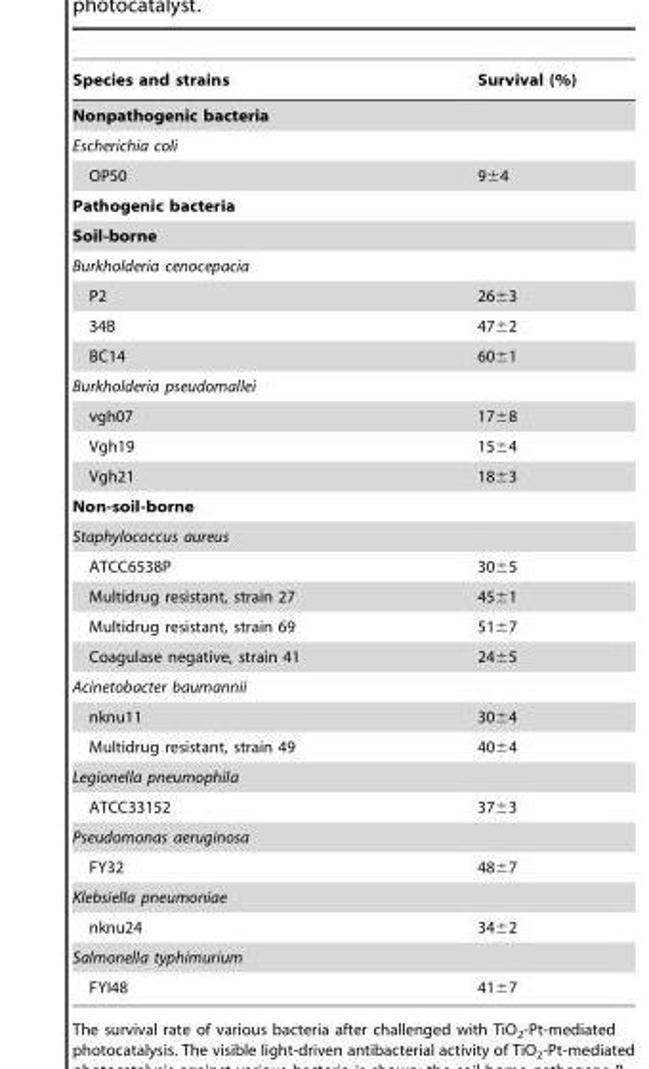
<table><thead><tr><td>Species and strains</td><td>Survival (%)</td></tr></thead><tbody><tr><td colspan="2">Nonpathogenic bacteria</td></tr><tr><td colspan="2">Escherichia coli</td></tr><tr><td>OP50</td><td>9±4</td></tr><tr><td colspan="2">Pathogenic bacteria</td></tr><tr><td colspan="2">Soil-borne</td></tr><tr><td colspan="2">Burkholderia cenocepacia</td></tr><tr><td>P2</td><td>26±3</td></tr><tr><td>34B</td><td>47±2</td></tr><tr><td>BC14</td><td>60±1</td></tr><tr><td colspan="2">Burkholderia pseudomallei</td></tr><tr><td>vgh07</td><td>17±8</td></tr><tr><td>Vgh19</td><td>15±4</td></tr><tr><td>Vgh21</td><td>18±3</td></tr><tr><td colspan="2">Non-soil-borne</td></tr><tr><td colspan="2">Staphylococcus aureus</td></tr><tr><td>ATCC6538P</td><td>30±5</td></tr><tr><td>Multidrug resistant, strain 27</td><td>45±1</td></tr><tr><td>Multidrug resistant, strain 69</td><td>51±7</td></tr><tr><td>Coagulase negative, strain 41</td><td>24±5</td></tr><tr><td colspan="2">Acinetobacter baumannii</td></tr><tr><td>nknu11</td><td>30±4</td></tr><tr><td>Multidrug resistant, strain 49</td><td>40±4</td></tr><tr><td colspan="2">Legionella pneumophila</td></tr><tr><td>ATCC33152</td><td>37±3</td></tr><tr><td colspan="2">Pseudomonas aeruginosa</td></tr><tr><td>FY32</td><td>48±7</td></tr><tr><td colspan="2">Klebsiella pneumoniae</td></tr><tr><td>nknu24</td><td>34±2</td></tr><tr><td colspan="2">Salmonella typhimurium</td></tr><tr><td>FYI48</td><td>41±7</td></tr></tbody></table>